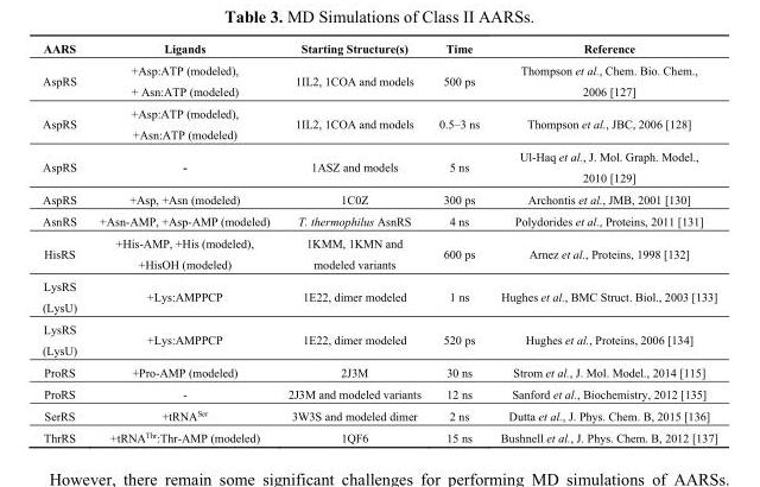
<table><thead><tr><td>AARS</td><td>Ligands</td><td>Starting Structure(s)</td><td>Time</td><td>Reference</td></tr></thead><tbody><tr><td>AspRS</td><td>+Asp:ATP (modeled), + Asn:ATP (modeled)</td><td>1IL2, 1COA and models</td><td>500 ps</td><td>Thompson et al., Chem. Bio. Chem., 2006 [127]</td></tr><tr><td>AspRS</td><td>+Asp:ATP (modeled), +Asn:ATP (modeled)</td><td>1IL2, 1COA and models</td><td>0.5–3 ns</td><td>Thompson et al., JBC, 2006 [128]</td></tr><tr><td>AspRS</td><td>-</td><td>1ASZ and models</td><td>5 ns</td><td>Ul-Haq et al., J. Mol. Graph. Model., 2010 [129]</td></tr><tr><td>AspRS</td><td>+Asp, +Asn (modeled)</td><td>1C0Z</td><td>300 ps</td><td>Archontis et al., JMB, 2001 [130]</td></tr><tr><td>AsnRS</td><td>+Asn-AMP, +Asp-AMP (modeled)</td><td>T. thermophilus AsnRS</td><td>4 ns</td><td>Polydorides et al., Proteins, 2011 [131]</td></tr><tr><td>HisRS</td><td>+His-AMP, +His (modeled), +HisOH (modeled)</td><td>1KMM, 1KMN and modeled variants</td><td>600 ps</td><td>Arnez et al., Proteins, 1998 [132]</td></tr><tr><td>LysRS (LysU)</td><td>+Lys:AMPPCP</td><td>1E22, dimer modeled</td><td>1 ns</td><td>Hughes et al., BMC Struct. Biol., 2003 [133]</td></tr><tr><td>LysRS (LysU)</td><td>+Lys:AMPPCP</td><td>1E22, dimer modeled</td><td>520 ps</td><td>Hughes et al., Proteins, 2006 [134]</td></tr><tr><td>ProRS</td><td>+Pro-AMP (modeled)</td><td>2J3M</td><td>30 ns</td><td>Strom et al., J. Mol. Model., 2014 [115]</td></tr><tr><td>ProRS</td><td>-</td><td>2J3M and modeled variants</td><td>12 ns</td><td>Sanford et al., Biochemistry, 2012 [135]</td></tr><tr><td>SerRS</td><td>+tRNA<sup>Ser</sup></td><td>3W3S and modeled dimer</td><td>2 ns</td><td>Dutta et al., J. Phys. Chem. B, 2015 [136]</td></tr><tr><td>ThrRS</td><td>+tRNA<sup>Thr</sup>:Thr-AMP (modeled)</td><td>1QF6</td><td>15 ns</td><td>Bushnell et al., J. Phys. Chem. B, 2012 [137]</td></tr></tbody></table>